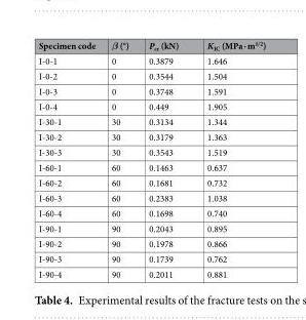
<table><thead><tr><td>Specimen code</td><td>β (°)</td><td>P<sub>cr</sub> (kN)</td><td>K<sub>IC</sub> (MPa · m<sup>1/2</sup>)</td></tr></thead><tbody><tr><td>I-0-1</td><td>0</td><td>0.3879</td><td>1.646</td></tr><tr><td>I-0-2</td><td>0</td><td>0.3544</td><td>1.504</td></tr><tr><td>I-0-3</td><td>0</td><td>0.3748</td><td>1.591</td></tr><tr><td>I-0-4</td><td>0</td><td>0.449</td><td>1.905</td></tr><tr><td>I-30-1</td><td>30</td><td>0.3134</td><td>1.344</td></tr><tr><td>I-30-2</td><td>30</td><td>0.3179</td><td>1.363</td></tr><tr><td>I-30-3</td><td>30</td><td>0.3543</td><td>1.519</td></tr><tr><td>I-60-1</td><td>60</td><td>0.1463</td><td>0.637</td></tr><tr><td>I-60-2</td><td>60</td><td>0.1681</td><td>0.732</td></tr><tr><td>I-60-3</td><td>60</td><td>0.2383</td><td>1.038</td></tr><tr><td>I-60-4</td><td>60</td><td>0.1698</td><td>0.740</td></tr><tr><td>I-90-1</td><td>90</td><td>0.2043</td><td>0.895</td></tr><tr><td>I-90-2</td><td>90</td><td>0.1978</td><td>0.866</td></tr><tr><td>I-90-3</td><td>90</td><td>0.1739</td><td>0.762</td></tr><tr><td>I-90-4</td><td>90</td><td>0.2011</td><td>0.881</td></tr></tbody></table>